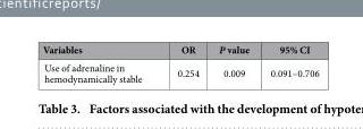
<table><thead><tr><td>Variables</td><td>OR</td><td>P value</td><td>95% CI</td></tr></thead><tbody><tr><td>Use of adrenaline in hemodynamically stable</td><td>0.254</td><td>0.009</td><td>0.091–0.706</td></tr></tbody></table>